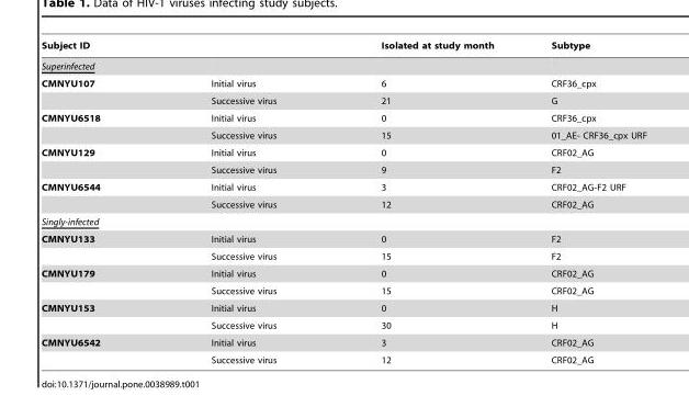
<table><thead><tr><td colspan="2">Subject ID</td><td rowspan="2">Isolated at study month</td><td rowspan="2">Subtype</td></tr><tr><td>Superinfected</td><td></td></tr></thead><tbody><tr><td rowspan="2">CMNYU107</td><td>Initial virus</td><td>6</td><td>CRF36_cpx</td></tr><tr><td>Successive virus</td><td>21</td><td>G</td></tr><tr><td rowspan="2">CMNYU6518</td><td>Initial virus</td><td>0</td><td>CRF36_cpx</td></tr><tr><td>Successive virus</td><td>15</td><td>01_AE- CRF36_cpx URF</td></tr><tr><td rowspan="2">CMNYU129</td><td>Initial virus</td><td>0</td><td>CRF02_AG</td></tr><tr><td>Successive virus</td><td>9</td><td>F2</td></tr><tr><td rowspan="2">CMNYU6544</td><td>Initial virus</td><td>3</td><td>CRF02_AG-F2 URF</td></tr><tr><td>Successive virus</td><td>12</td><td>CRF02_AG</td></tr><tr><td colspan="4">Singly-infected</td></tr><tr><td rowspan="2">CMNYU133</td><td>Initial virus</td><td>0</td><td>F2</td></tr><tr><td>Successive virus</td><td>15</td><td>F2</td></tr><tr><td rowspan="2">CMNYU179</td><td>Initial virus</td><td>0</td><td>CRF02_AG</td></tr><tr><td>Successive virus</td><td>15</td><td>CRF02_AG</td></tr><tr><td rowspan="2">CMNYU153</td><td>Initial virus</td><td>0</td><td>H</td></tr><tr><td>Successive virus</td><td>30</td><td>H</td></tr><tr><td rowspan="2">CMNYU6542</td><td>Initial virus</td><td>3</td><td>CRF02_AG</td></tr><tr><td>Successive virus</td><td>12</td><td>CRF02_AG</td></tr></tbody></table>